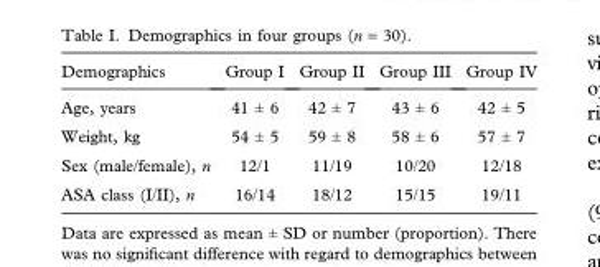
<table><thead><tr><td>Demographics</td><td>Group I</td><td>Group II</td><td>Group III</td><td>Group IV</td></tr></thead><tbody><tr><td>Age, years</td><td>41 ± 6</td><td>42 ± 7</td><td>43 ± 6</td><td>42 ± 5</td></tr><tr><td>Weight, kg</td><td>54 ± 5</td><td>59 ± 8</td><td>58 ± 6</td><td>57 ± 7</td></tr><tr><td>Sex (male/female), n</td><td>12/1</td><td>11/19</td><td>10/20</td><td>12/18</td></tr><tr><td>ASA class (I/II), n</td><td>16/14</td><td>18/12</td><td>15/15</td><td>19/11</td></tr></tbody></table>